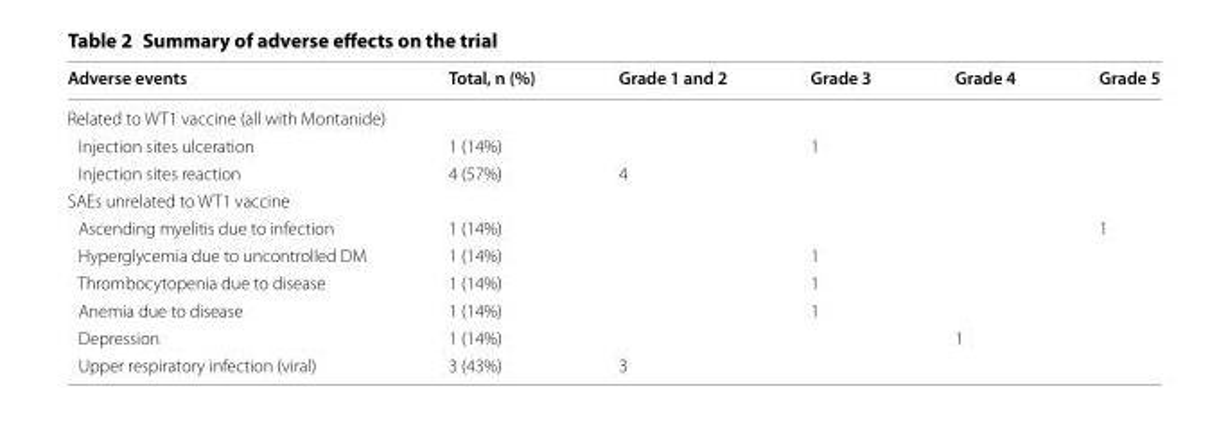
<table><thead><tr><td>Adverse events</td><td>Total, n (%)</td><td>Grade 1 and 2</td><td>Grade 3</td><td>Grade 4</td><td>Grade 5</td></tr></thead><tbody><tr><td colspan="6">Related to WT1 vaccine (all with Montanide)</td></tr><tr><td>Injection sites ulceration</td><td>1 (14%)</td><td></td><td>1</td><td></td><td></td></tr><tr><td>Injection sites reaction</td><td>4 (57%)</td><td>4</td><td></td><td></td><td></td></tr><tr><td colspan="6">SAEs unrelated to WT1 vaccine</td></tr><tr><td>Ascending myelitis due to infection</td><td>1 (14%)</td><td></td><td></td><td></td><td>1</td></tr><tr><td>Hyperglycemia due to uncontrolled DM</td><td>1 (14%)</td><td></td><td>1</td><td></td><td></td></tr><tr><td>Thrombocytopenia due to disease</td><td>1 (14%)</td><td></td><td>1</td><td></td><td></td></tr><tr><td>Anemia due to disease</td><td>1 (14%)</td><td></td><td>1</td><td></td><td></td></tr><tr><td>Depression</td><td>1 (14%)</td><td></td><td></td><td>1</td><td></td></tr><tr><td>Upper respiratory infection (viral)</td><td>3 (43%)</td><td>3</td><td></td><td></td><td></td></tr></tbody></table>